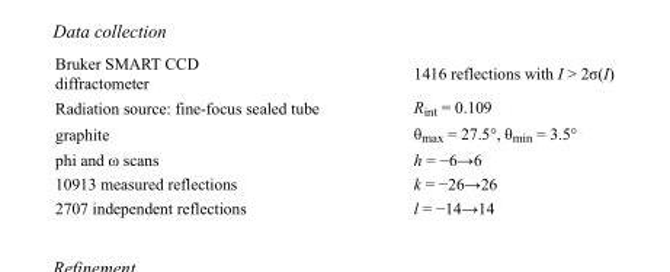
<table><tbody><tr><td>Bruker SMART CCD diffractometer</td><td>1416 reflections with I &gt; 2σ(I)</td></tr><tr><td>Radiation source: fine-focus sealed tube</td><td>R<sub>int</sub> = 0.109</td></tr><tr><td>graphite</td><td>θ<sub>max</sub> = 27.5°, θ<sub>min</sub> = 3.5°</td></tr><tr><td>phi and ω scans</td><td>h = −6→6</td></tr><tr><td>10913 measured reflections</td><td>k = −26→26</td></tr><tr><td>2707 independent reflections</td><td>l = −14→14</td></tr></tbody></table>